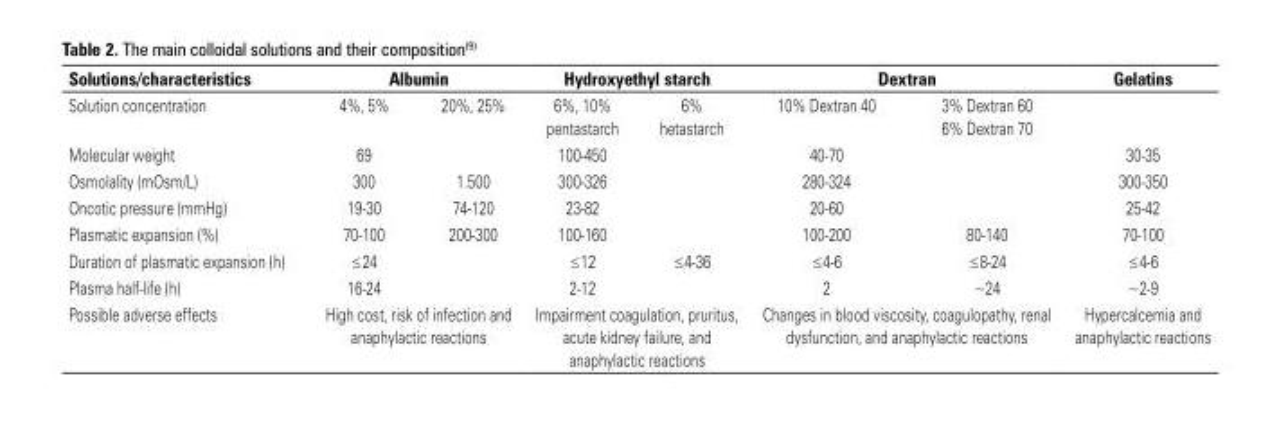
<table><thead><tr><td rowspan="2">Solutions/characteristics Solution concentration</td><td colspan="2">Albumin</td><td colspan="2">Hydroxyethyl starch</td><td colspan="2">Dextran</td><td rowspan="2">Gelatins</td></tr><tr><td>4%, 5%</td><td>20%, 25%</td><td>6%, 10% pentastarch</td><td>6% hetastarch</td><td>10% Dextran 40</td><td>3% Dextran 60 6% Dextran 70</td></tr></thead><tbody><tr><td>Molecular weight</td><td>69</td><td></td><td>100-450</td><td></td><td>40-70</td><td></td><td>30-35</td></tr><tr><td>Osmolality (mOsm/L)</td><td>300</td><td>1.500</td><td>300-326</td><td></td><td>280-324</td><td></td><td>300-350</td></tr><tr><td>Oncotic pressure (mmHg)</td><td>19-30</td><td>74-120</td><td>23-82</td><td></td><td>20-60</td><td></td><td>25-42</td></tr><tr><td>Plasmatic expansion (%)</td><td>70-100</td><td>200-300</td><td>100-160</td><td></td><td>100-200</td><td>80-140</td><td>70-100</td></tr><tr><td>Duration of plasmatic expansion (h)</td><td>≤24</td><td></td><td>≤12</td><td>≤4-36</td><td>≤4-6</td><td>≤8-24</td><td>≤4-6</td></tr><tr><td>Plasma half-life (h)</td><td>16-24</td><td></td><td>2-12</td><td></td><td>2</td><td>~24</td><td>~2-9</td></tr><tr><td>Possible adverse effects</td><td colspan="2">High cost, risk of infection and anaphylactic reactions</td><td colspan="2">Impairment coagulation, pruritus, acute kidney failure, and anaphylactic reactions</td><td colspan="2">Changes in blood viscosity, coagulopathy, renal dysfunction, and anaphylactic reactions</td><td>Hypercalcemia and anaphylactic reactions</td></tr></tbody></table>